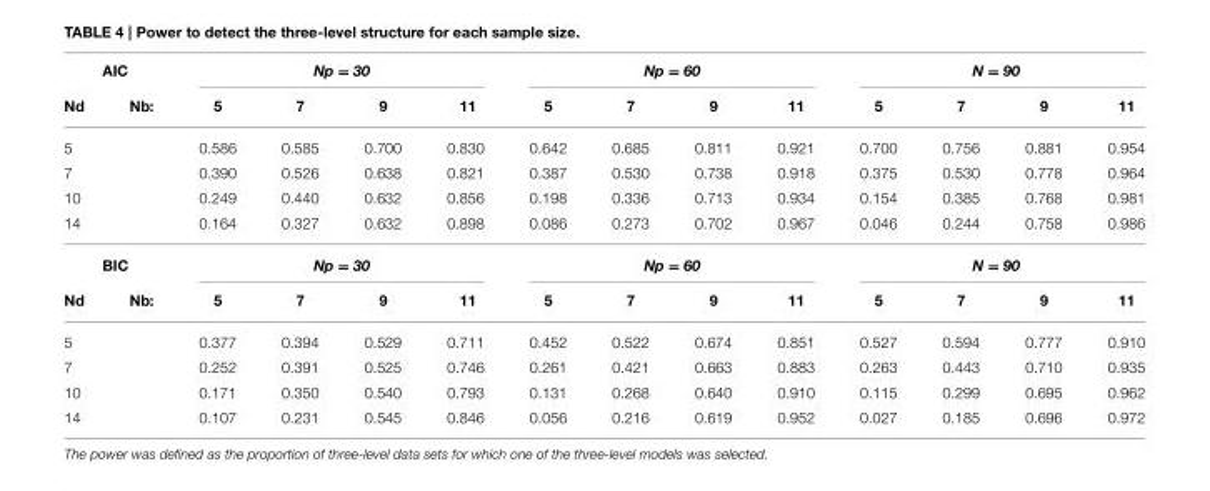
<table><thead><tr><td colspan="2">AIC</td><td colspan="4">Np = 30</td><td colspan="4">Np = 60</td><td colspan="4">N = 90</td></tr><tr><td>Nd</td><td>Nb:</td><td>5</td><td>7</td><td>9</td><td>11</td><td>5</td><td>7</td><td>9</td><td>11</td><td>5</td><td>7</td><td>9</td><td>11</td></tr></thead><tbody><tr><td>5</td><td></td><td>0.586</td><td>0.585</td><td>0.700</td><td>0.830</td><td>0.642</td><td>0.685</td><td>0.811</td><td>0.921</td><td>0.700</td><td>0.756</td><td>0.881</td><td>0.954</td></tr><tr><td>7</td><td></td><td>0.390</td><td>0.526</td><td>0.638</td><td>0.821</td><td>0.387</td><td>0.530</td><td>0.738</td><td>0.918</td><td>0.375</td><td>0.530</td><td>0.778</td><td>0.964</td></tr><tr><td>10</td><td></td><td>0.249</td><td>0.440</td><td>0.632</td><td>0.856</td><td>0.198</td><td>0.336</td><td>0.713</td><td>0.934</td><td>0.154</td><td>0.385</td><td>0.768</td><td>0.981</td></tr><tr><td>14</td><td></td><td>0.164</td><td>0.327</td><td>0.632</td><td>0.898</td><td>0.086</td><td>0.273</td><td>0.702</td><td>0.967</td><td>0.046</td><td>0.244</td><td>0.758</td><td>0.986</td></tr><tr><td colspan="2">BIC</td><td colspan="4">Np = 30</td><td colspan="4">Np = 60</td><td colspan="4">N = 90</td></tr><tr><td>Nd</td><td>Nb:</td><td>5</td><td>7</td><td>9</td><td>11</td><td>5</td><td>7</td><td>9</td><td>11</td><td>5</td><td>7</td><td>9</td><td>11</td></tr><tr><td>5</td><td></td><td>0.377</td><td>0.394</td><td>0.529</td><td>0.711</td><td>0.452</td><td>0.522</td><td>0.674</td><td>0.851</td><td>0.527</td><td>0.594</td><td>0.777</td><td>0.910</td></tr><tr><td>7</td><td></td><td>0.252</td><td>0.391</td><td>0.525</td><td>0.746</td><td>0.261</td><td>0.421</td><td>0.663</td><td>0.883</td><td>0.263</td><td>0.443</td><td>0.710</td><td>0.935</td></tr><tr><td>10</td><td></td><td>0.171</td><td>0.350</td><td>0.540</td><td>0.793</td><td>0.131</td><td>0.268</td><td>0.640</td><td>0.910</td><td>0.115</td><td>0.299</td><td>0.695</td><td>0.962</td></tr><tr><td>14</td><td></td><td>0.107</td><td>0.231</td><td>0.545</td><td>0.846</td><td>0.056</td><td>0.216</td><td>0.619</td><td>0.952</td><td>0.027</td><td>0.185</td><td>0.696</td><td>0.972</td></tr></tbody></table>